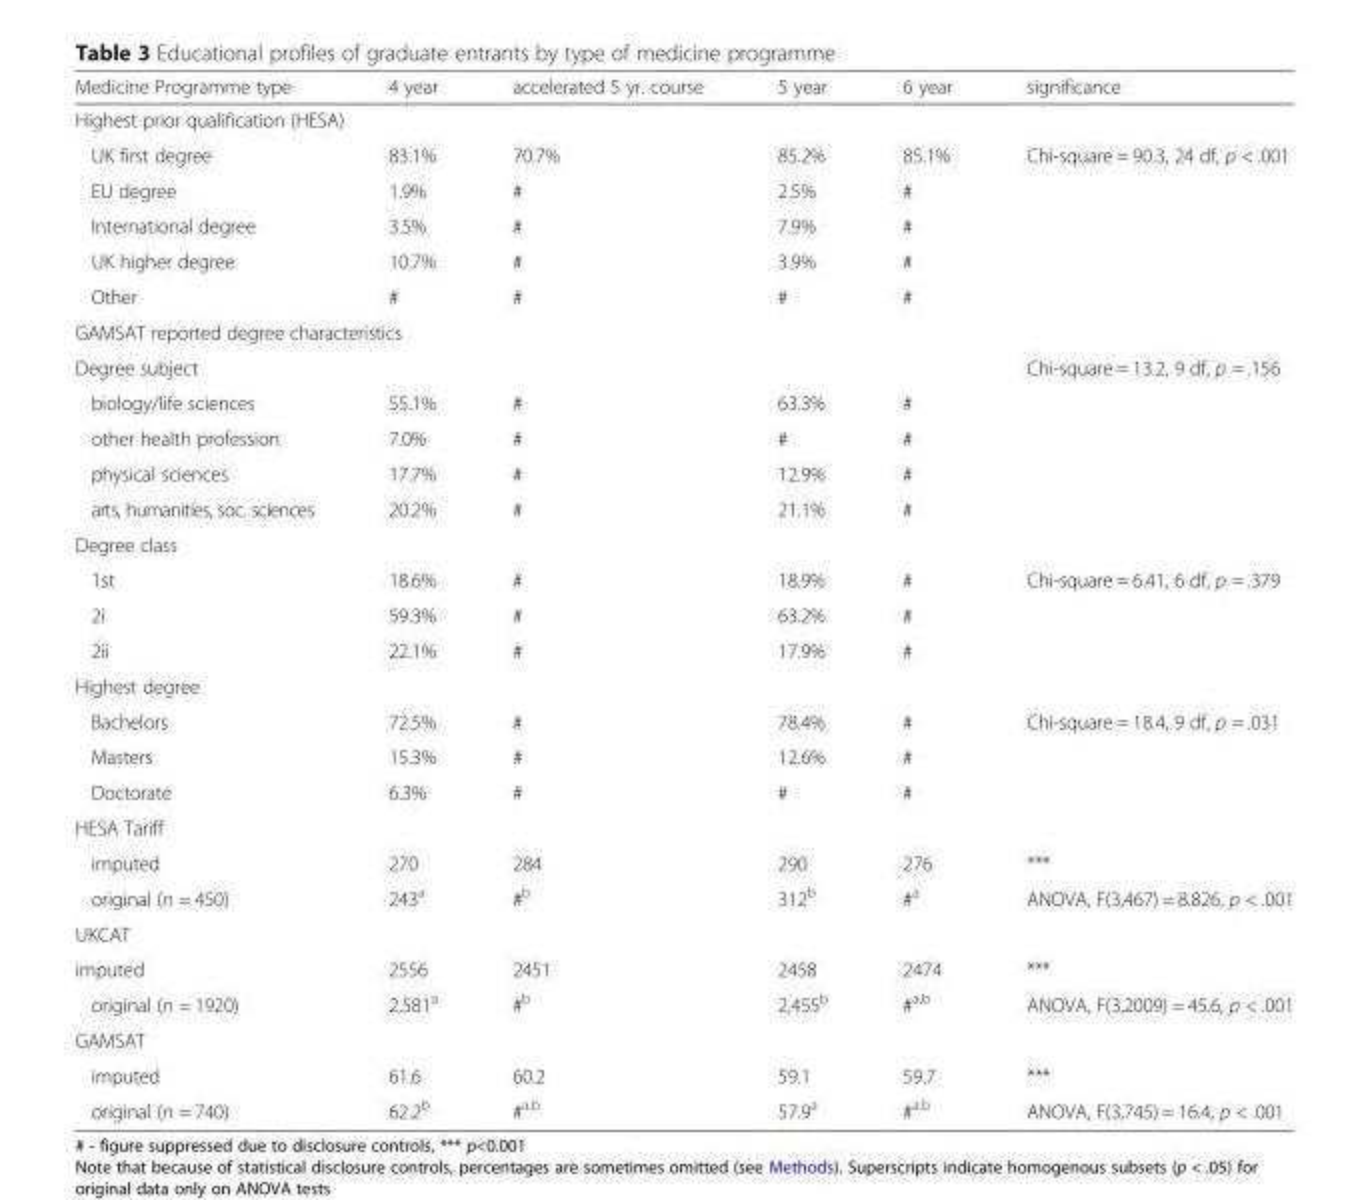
<table><thead><tr><td>Medicine Programme type</td><td>4 year</td><td>accelerated 5 yr. course</td><td>5 year</td><td>6 year</td><td>significance</td></tr></thead><tbody><tr><td colspan="6">Highest prior qualification (HESA)</td></tr><tr><td>UK first degree</td><td>83.1%</td><td>70.7%</td><td>85.2%</td><td>85.1%</td><td>Chi-square = 90.3, 24 df, p &lt; .001</td></tr><tr><td>EU degree</td><td>1.9%</td><td>#</td><td>2.5%</td><td>#</td><td></td></tr><tr><td>International degree</td><td>3.5%</td><td>#</td><td>7.9%</td><td>#</td><td></td></tr><tr><td>UK higher degree</td><td>10.7%</td><td>#</td><td>3.9%</td><td>#</td><td></td></tr><tr><td>Other</td><td>#</td><td>#</td><td>#</td><td>#</td><td></td></tr><tr><td colspan="6">GAMSAT reported degree characteristics</td></tr><tr><td>Degree subject</td><td></td><td></td><td></td><td></td><td>Chi-square = 13.2, 9 df, p = .156</td></tr><tr><td>biology/life sciences</td><td>55.1%</td><td>#</td><td>63.3%</td><td>#</td><td></td></tr><tr><td>other health profession</td><td>7.0%</td><td>#</td><td>#</td><td>#</td><td></td></tr><tr><td>physical sciences</td><td>17.7%</td><td>#</td><td>12.9%</td><td>#</td><td></td></tr><tr><td>arts, humanities, soc. sciences</td><td>20.2%</td><td>#</td><td>21.1%</td><td>#</td><td></td></tr><tr><td colspan="6">Degree class</td></tr><tr><td>1st</td><td>18.6%</td><td>#</td><td>18.9%</td><td>#</td><td>Chi-square = 6.41, 6 df, p = .379</td></tr><tr><td>2i</td><td>59.3%</td><td>#</td><td>63.2%</td><td>#</td><td></td></tr><tr><td>2ii</td><td>22.1%</td><td>#</td><td>17.9%</td><td>#</td><td></td></tr><tr><td colspan="6">Highest degree</td></tr><tr><td>Bachelors</td><td>72.5%</td><td>#</td><td>78.4%</td><td>#</td><td>Chi-square = 18.4, 9 df, p = .031</td></tr><tr><td>Masters</td><td>15.3%</td><td>#</td><td>12.6%</td><td>#</td><td></td></tr><tr><td>Doctorate</td><td>6.3%</td><td>#</td><td>#</td><td>#</td><td></td></tr><tr><td colspan="6">HESA Tariff</td></tr><tr><td>imputed</td><td>270</td><td>284</td><td>290</td><td>276</td><td>***</td></tr><tr><td>original (n = 450)</td><td>243<sup>a</sup></td><td>#<sup>b</sup></td><td>312<sup>b</sup></td><td>#<sup>a</sup></td><td>ANOVA, F(3,467) = 8.826, p &lt; .001</td></tr><tr><td colspan="6">UKCAT</td></tr><tr><td>imputed</td><td>2556</td><td>2451</td><td>2458</td><td>2474</td><td>***</td></tr><tr><td>original (n = 1920)</td><td>2,581<sup>a</sup></td><td>#<sup>b</sup></td><td>2,455<sup>b</sup></td><td>#<sup>a,b</sup></td><td>ANOVA, F(3,2009) = 45.6, p &lt; .001</td></tr><tr><td colspan="6">GAMSAT</td></tr><tr><td>imputed</td><td>61.6</td><td>60.2</td><td>59.1</td><td>59.7</td><td>***</td></tr><tr><td>original (n = 740)</td><td>62.2<sup>b</sup></td><td>#<sup>a,b</sup></td><td>57.9<sup>a</sup></td><td>#<sup>a,b</sup></td><td>ANOVA, F(3,745) = 16.4, p &lt; .001</td></tr></tbody></table>